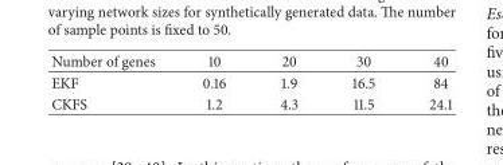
<table><thead><tr><td>Number of genes</td><td>10</td><td>20</td><td>30</td><td>40</td></tr></thead><tbody><tr><td>EKF</td><td>0.16</td><td>1.9</td><td>16.5</td><td>84</td></tr><tr><td>CKFS</td><td>1.2</td><td>4.3</td><td>11.5</td><td>24.1</td></tr></tbody></table>